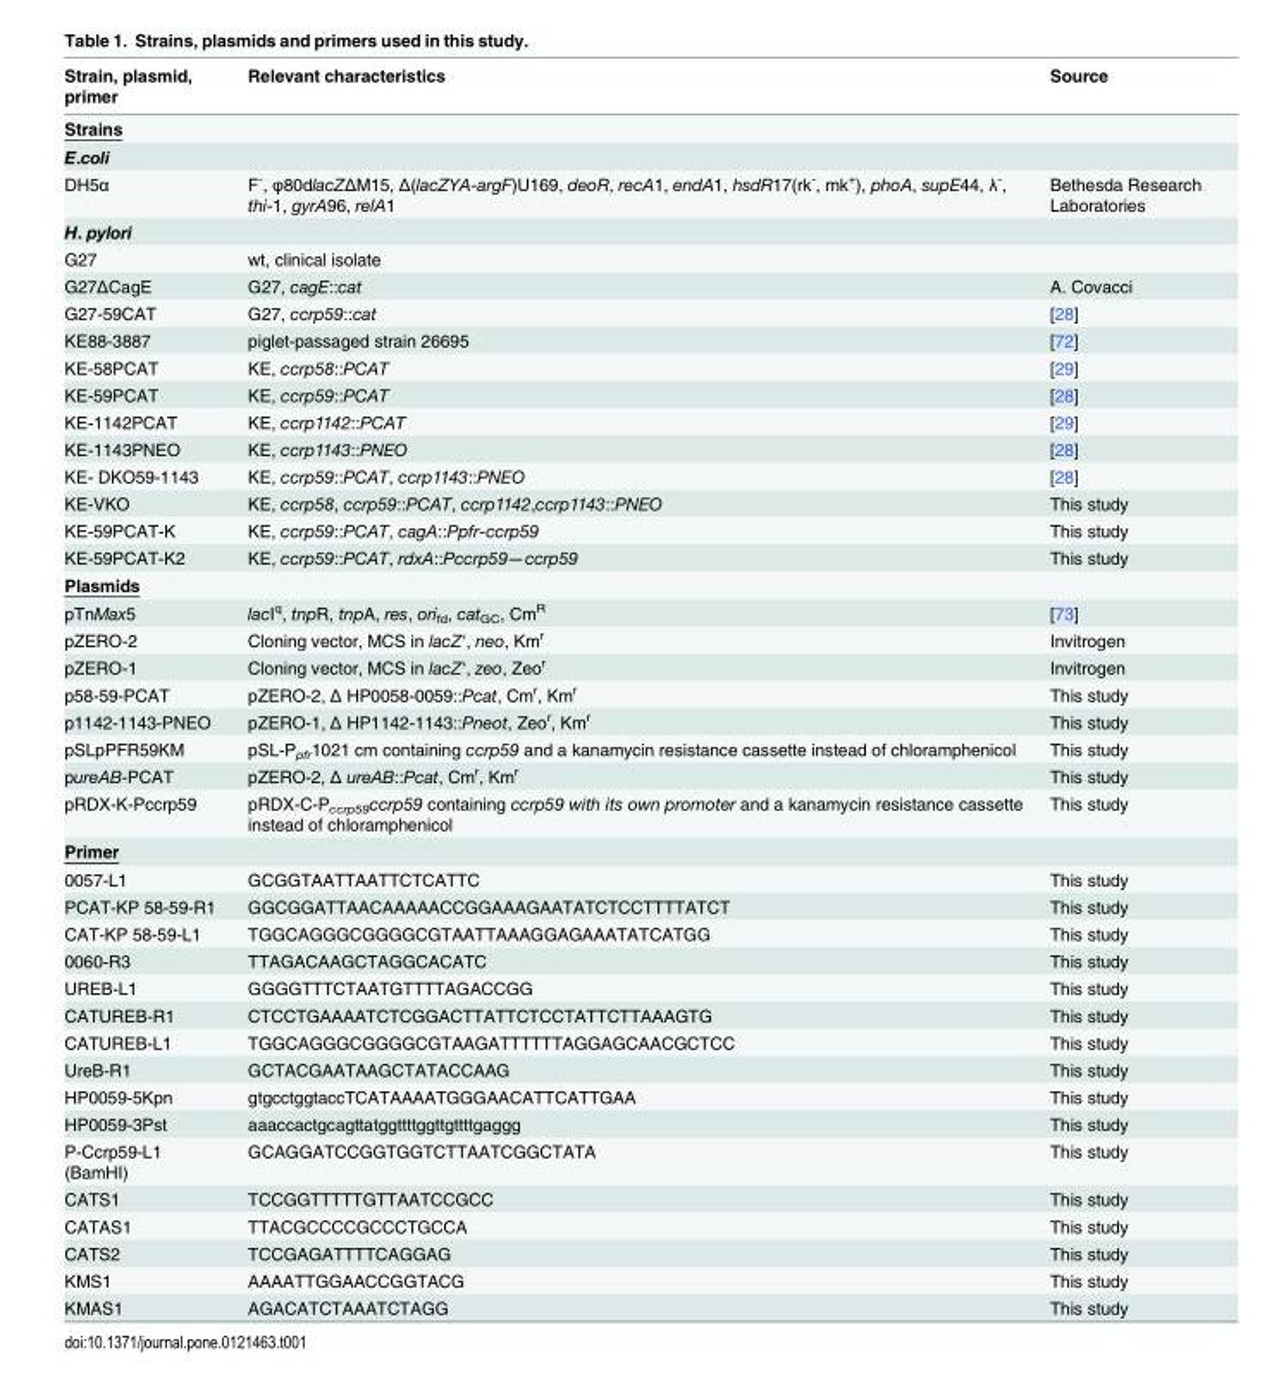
<table><thead><tr><td>Strain, plasmid, primer</td><td>Relevant characteristics</td><td>Source</td></tr></thead><tbody><tr><td colspan="3">Strains</td></tr><tr><td colspan="3">E.coli</td></tr><tr><td>DH5α</td><td>F<sup>-</sup>, φ80dlacZΔM15, Δ(lacZYA-argF)U169, deoR, recA1, endA1, hsdR17(rk<sup>-</sup>, mk<sup>+</sup>), phoA, supE44, λ<sup>-</sup>, thi-1, gyrA96, relA1</td><td>Bethesda Research Laboratories</td></tr><tr><td colspan="3">H. pylori</td></tr><tr><td>G27</td><td>wt, clinical isolate</td><td></td></tr><tr><td>G27ΔCagE</td><td>G27, cagE::cat</td><td>A. Covacci</td></tr><tr><td>G27-59CAT</td><td>G27, ccrp59::cat</td><td>[28]</td></tr><tr><td>KE88-3887</td><td>piglet-passaged strain 26695</td><td>[72]</td></tr><tr><td>KE-58PCAT</td><td>KE, ccrp58::PCAT</td><td>[29]</td></tr><tr><td>KE-59PCAT</td><td>KE, ccrp59::PCAT</td><td>[28]</td></tr><tr><td>KE-1142PCAT</td><td>KE, ccrp1142::PCAT</td><td>[29]</td></tr><tr><td>KE-1143PNEO</td><td>KE, ccrp1143::PNEO</td><td>[28]</td></tr><tr><td>KE- DKO59-1143</td><td>KE, ccrp59::PCAT, ccrp1143::PNEO</td><td>[28]</td></tr><tr><td>KE-VKO</td><td>KE, ccrp58, ccrp59::PCAT, ccrp1142,ccrp1143::PNEO</td><td>This study</td></tr><tr><td>KE-59PCAT-K</td><td>KE, ccrp59::PCAT, cagA::Ppfr-ccrp59</td><td>This study</td></tr><tr><td>KE-59PCAT-K2</td><td>KE, ccrp59::PCAT, rdxA::Pccrp59—ccrp59</td><td>This study</td></tr><tr><td colspan="3">Plasmids</td></tr><tr><td>pTnMax5</td><td>lacI<sup>q</sup>, tnpR, tnpA, res, ori<sub>fd</sub>, cat<sub>GC</sub>, Cm<sup>R</sup></td><td>[73]</td></tr><tr><td>pZERO-2</td><td>Cloning vector, MCS in lacZ&#x27;, neo, Km<sup>r</sup></td><td>Invitrogen</td></tr><tr><td>pZERO-1</td><td>Cloning vector, MCS in lacZ&#x27;, zeo, Zeo<sup>r</sup></td><td>Invitrogen</td></tr><tr><td>p58-59-PCAT</td><td>pZERO-2, Δ HP0058-0059::Pcat, Cm<sup>r</sup>, Km<sup>r</sup></td><td>This study</td></tr><tr><td>p1142-1143-PNEO</td><td>pZERO-1, Δ HP1142-1143::Pneot, Zeo<sup>r</sup>, Km<sup>r</sup></td><td>This study</td></tr><tr><td>pSLpPFR59KM</td><td>pSL-P<sub>pfr</sub>1021 cm containing ccrp59 and a kanamycin resistance cassette instead of chloramphenicol</td><td>This study</td></tr><tr><td>pureAB-PCAT</td><td>pZERO-2, Δ ureAB::Pcat, Cm<sup>r</sup>, Km<sup>r</sup></td><td>This study</td></tr><tr><td>pRDX-K-Pccrp59</td><td>pRDX-C-P<sub>ccrp59</sub>ccrp59 containing ccrp59 with its own promoter and a kanamycin resistance cassette instead of chloramphenicol</td><td>This study</td></tr><tr><td colspan="3">Primer</td></tr><tr><td>0057-L1</td><td>GCGGTAATTAATTCTCATTC</td><td>This study</td></tr><tr><td>PCAT-KP 58-59-R1</td><td>GGCGGATTAACAAAAACCGGAAAGAATATCTCCTTTTATCT</td><td>This study</td></tr><tr><td>CAT-KP 58-59-L1</td><td>TGGCAGGGCGGGGCGTAATTAAAGGAGAAATATCATGG</td><td>This study</td></tr><tr><td>0060-R3</td><td>TTAGACAAGCTAGGCACATC</td><td>This study</td></tr><tr><td>UREB-L1</td><td>GGGGTTTCTAATGTTTTAGACCGG</td><td>This study</td></tr><tr><td>CATUREB-R1</td><td>CTCCTGAAAATCTCGGACTTATTCTCCTATTCTTAAAGTG</td><td>This study</td></tr><tr><td>CATUREB-L1</td><td>TGGCAGGGCGGGGCGTAAGATTTTTTAGGAGCAACGCTCC</td><td>This study</td></tr><tr><td>UreB-R1</td><td>GCTACGAATAAGCTATACCAAG</td><td>This study</td></tr><tr><td>HP0059-5Kpn</td><td>gtgcctggtaccTCATAAAATGGGAACATTCATTGAA</td><td>This study</td></tr><tr><td>HP0059-3Pst</td><td>aaaccactgcagttatggttttggttgttttgaggg</td><td>This study</td></tr><tr><td>P-Ccrp59-L1 (BamHI)</td><td>GCAGGATCCGGTGGTCTTAATCGGCTATA</td><td>This study</td></tr><tr><td>CATS1</td><td>TCCGGTTTTTGTTAATCCGCC</td><td>This study</td></tr><tr><td>CATAS1</td><td>TTACGCCCCGCCCTGCCA</td><td>This study</td></tr><tr><td>CATS2</td><td>TCCGAGATTTTCAGGAG</td><td>This study</td></tr><tr><td>KMS1</td><td>AAAATTGGAACCGGTACG</td><td>This study</td></tr><tr><td>KMAS1</td><td>AGACATCTAAATCTAGG</td><td>This study</td></tr></tbody></table>